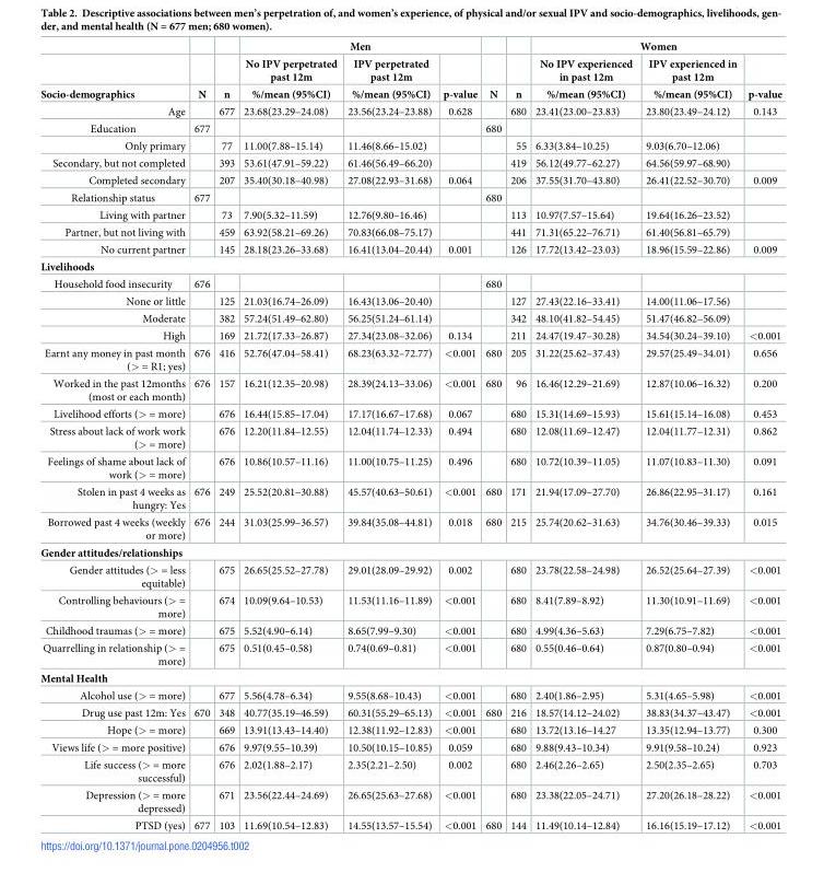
<table><thead><tr><td rowspan="3">Socio-demographics</td><td rowspan="3">N</td><td rowspan="3">n</td><td colspan="3">Men</td><td rowspan="3">N</td><td rowspan="3">n</td><td colspan="3">Women</td></tr><tr><td rowspan="2">No IPV perpetrated past 12m %/mean (95%CI)</td><td rowspan="2">IPV perpetrated past 12m %/mean (95%CI)</td><td rowspan="2">p-value</td><td rowspan="2">No IPV experienced in past 12m %/mean (95%CI)</td><td rowspan="2">IPV experienced in past 12m %/mean (95%CI)</td><td rowspan="2">p-value</td></tr><tr></tr></thead><tbody><tr><td>Age</td><td></td><td>677</td><td>23.68(23.29–24.08)</td><td>23.56(23.24–23.88)</td><td>0.628</td><td></td><td>680</td><td>23.41(23.00–23.83)</td><td>23.80(23.49–24.12)</td><td>0.143</td></tr><tr><td>Education</td><td>677</td><td></td><td></td><td></td><td></td><td>680</td><td></td><td></td><td></td><td></td></tr><tr><td>Only primary</td><td></td><td>77</td><td>11.00(7.88–15.14)</td><td>11.46(8.66–15.02)</td><td></td><td></td><td>55</td><td>6.33(3.84–10.25)</td><td>9.03(6.70–12.06)</td><td></td></tr><tr><td>Secondary, but not completed</td><td></td><td>393</td><td>53.61(47.91–59.22)</td><td>61.46(56.49–66.20)</td><td></td><td></td><td>419</td><td>56.12(49.77–62.27)</td><td>64.56(59.97–68.90)</td><td></td></tr><tr><td>Completed secondary</td><td></td><td>207</td><td>35.40(30.18–40.98)</td><td>27.08(22.93–31.68)</td><td>0.064</td><td></td><td>206</td><td>37.55(31.70–43.80)</td><td>26.41(22.52–30.70)</td><td>0.009</td></tr><tr><td>Relationship status</td><td>677</td><td></td><td></td><td></td><td></td><td>680</td><td></td><td></td><td></td><td></td></tr><tr><td>Living with partner</td><td></td><td>73</td><td>7.90(5.32–11.59)</td><td>12.76(9.80–16.46)</td><td></td><td></td><td>113</td><td>10.97(7.57–15.64)</td><td>19.64(16.26–23.52)</td><td></td></tr><tr><td>Partner, but not living with</td><td></td><td>459</td><td>63.92(58.21–69.26)</td><td>70.83(66.08–75.17)</td><td></td><td></td><td>441</td><td>71.31(65.22–76.71)</td><td>61.40(56.81–65.79)</td><td></td></tr><tr><td>No current partner</td><td></td><td>145</td><td>28.18(23.26–33.68)</td><td>16.41(13.04–20.44)</td><td>0.001</td><td></td><td>126</td><td>17.72(13.42–23.03)</td><td>18.96(15.59–22.86)</td><td>0.009</td></tr><tr><td colspan="11">Livelihoods</td></tr><tr><td>Household food insecurity</td><td>676</td><td></td><td></td><td></td><td></td><td>680</td><td></td><td></td><td></td><td></td></tr><tr><td>None or little</td><td></td><td>125</td><td>21.03(16.74–26.09)</td><td>16.43(13.06–20.40)</td><td></td><td></td><td>127</td><td>27.43(22.16–33.41)</td><td>14.00(11.06–17.56)</td><td></td></tr><tr><td>Moderate</td><td></td><td>382</td><td>57.24(51.49–62.80)</td><td>56.25(51.24–61.14)</td><td></td><td></td><td>342</td><td>48.10(41.82–54.45)</td><td>51.47(46.82–56.09)</td><td></td></tr><tr><td>High</td><td></td><td>169</td><td>21.72(17.33–26.87)</td><td>27.34(23.08–32.06)</td><td>0.134</td><td></td><td>211</td><td>24.47(19.47–30.28)</td><td>34.54(30.24–39.10)</td><td>&lt;0.001</td></tr><tr><td>Earnt any money in past month (&gt; = R1; yes)</td><td>676</td><td>416</td><td>52.76(47.04–58.41)</td><td>68.23(63.32–72.77)</td><td>&lt;0.001</td><td>680</td><td>205</td><td>31.22(25.62–37.43)</td><td>29.57(25.49–34.01)</td><td>0.656</td></tr><tr><td>Worked in the past 12months (most or each month)</td><td>676</td><td>157</td><td>16.21(12.35–20.98)</td><td>28.39(24.13–33.06)</td><td>&lt;0.001</td><td>680</td><td>96</td><td>16.46(12.29–21.69)</td><td>12.87(10.06–16.32)</td><td>0.200</td></tr><tr><td>Livelihood efforts (&gt; = more)</td><td></td><td>676</td><td>16.44(15.85–17.04)</td><td>17.17(16.67–17.68)</td><td>0.067</td><td></td><td>680</td><td>15.31(14.69–15.93)</td><td>15.61(15.14–16.08)</td><td>0.453</td></tr><tr><td>Stress about lack of work work (&gt; = more)</td><td></td><td>676</td><td>12.20(11.84–12.55)</td><td>12.04(11.74–12.33)</td><td>0.494</td><td></td><td>680</td><td>12.08(11.69–12.47)</td><td>12.04(11.77–12.31)</td><td>0.862</td></tr><tr><td>Feelings of shame about lack of work (&gt; = more)</td><td></td><td>676</td><td>10.86(10.57–11.16)</td><td>11.00(10.75–11.25)</td><td>0.496</td><td></td><td>680</td><td>10.72(10.39–11.05)</td><td>11.07(10.83–11.30)</td><td>0.091</td></tr><tr><td>Stolen in past 4 weeks as hungry: Yes</td><td>676</td><td>249</td><td>25.52(20.81–30.88)</td><td>45.57(40.63–50.61)</td><td>&lt;0.001</td><td>680</td><td>171</td><td>21.94(17.09–27.70)</td><td>26.86(22.95–31.17)</td><td>0.161</td></tr><tr><td>Borrowed past 4 weeks (weekly or more)</td><td>676</td><td>244</td><td>31.03(25.99–36.57)</td><td>39.84(35.08–44.81)</td><td>0.018</td><td>680</td><td>215</td><td>25.74(20.62–31.63)</td><td>34.76(30.46–39.33)</td><td>0.015</td></tr><tr><td colspan="11">Gender attitudes/relationships</td></tr><tr><td>Gender attitudes (&gt; = less equitable)</td><td></td><td>675</td><td>26.65(25.52–27.78)</td><td>29.01(28.09–29.92)</td><td>0.002</td><td></td><td>680</td><td>23.78(22.58–24.98)</td><td>26.52(25.64–27.39)</td><td>&lt;0.001</td></tr><tr><td>Controlling behaviours (&gt; = more)</td><td></td><td>674</td><td>10.09(9.64–10.53)</td><td>11.53(11.16–11.89)</td><td>&lt;0.001</td><td></td><td>680</td><td>8.41(7.89–8.92)</td><td>11.30(10.91–11.69)</td><td>&lt;0.001</td></tr><tr><td>Childhood traumas (&gt; = more)</td><td></td><td>675</td><td>5.52(4.90–6.14)</td><td>8.65(7.99–9.30)</td><td>&lt;0.001</td><td></td><td>680</td><td>4.99(4.36–5.63)</td><td>7.29(6.75–7.82)</td><td>&lt;0.001</td></tr><tr><td>Quarrelling in relationship (&gt; = more)</td><td></td><td>675</td><td>0.51(0.45–0.58)</td><td>0.74(0.69–0.81)</td><td>&lt;0.001</td><td></td><td>680</td><td>0.55(0.46–0.64)</td><td>0.87(0.80–0.94)</td><td>&lt;0.001</td></tr><tr><td colspan="11">Mental Health</td></tr><tr><td>Alcohol use (&gt; = more)</td><td></td><td>677</td><td>5.56(4.78–6.34)</td><td>9.55(8.68–10.43)</td><td>&lt;0.001</td><td></td><td>680</td><td>2.40(1.86–2.95)</td><td>5.31(4.65–5.98)</td><td>&lt;0.001</td></tr><tr><td>Drug use past 12m: Yes</td><td>670</td><td>348</td><td>40.77(35.19–46.59)</td><td>60.31(55.29–65.13)</td><td>&lt;0.001</td><td>680</td><td>216</td><td>18.57(14.12–24.02)</td><td>38.83(34.37–43.47)</td><td>&lt;0.001</td></tr><tr><td>Hope (&gt; = more)</td><td></td><td>669</td><td>13.91(13.43–14.40)</td><td>12.38(11.92–12.83)</td><td>&lt;0.001</td><td></td><td>680</td><td>13.72(13.16–14.27</td><td>13.35(12.94–13.77)</td><td>0.300</td></tr><tr><td>Views life (&gt; = more positive)</td><td></td><td>676</td><td>9.97(9.55–10.39)</td><td>10.50(10.15–10.85)</td><td>0.059</td><td></td><td>680</td><td>9.88(9.43–10.34)</td><td>9.91(9.58–10.24)</td><td>0.923</td></tr><tr><td>Life success (&gt; = more successful)</td><td></td><td>676</td><td>2.02(1.88–2.17)</td><td>2.35(2.21–2.50)</td><td>0.002</td><td></td><td>680</td><td>2.46(2.26–2.65)</td><td>2.50(2.35–2.65)</td><td>0.703</td></tr><tr><td>Depression (&gt; = more depressed)</td><td></td><td>671</td><td>23.56(22.44–24.69)</td><td>26.65(25.63–27.68)</td><td>&lt;0.001</td><td></td><td>680</td><td>23.38(22.05–24.71)</td><td>27.20(26.18–28.22)</td><td>&lt;0.001</td></tr><tr><td>PTSD (yes)</td><td>677</td><td>103</td><td>11.69(10.54–12.83)</td><td>14.55(13.57–15.54)</td><td>&lt;0.001</td><td>680</td><td>144</td><td>11.49(10.14–12.84)</td><td>16.16(15.19–17.12)</td><td>&lt;0.001</td></tr></tbody></table>